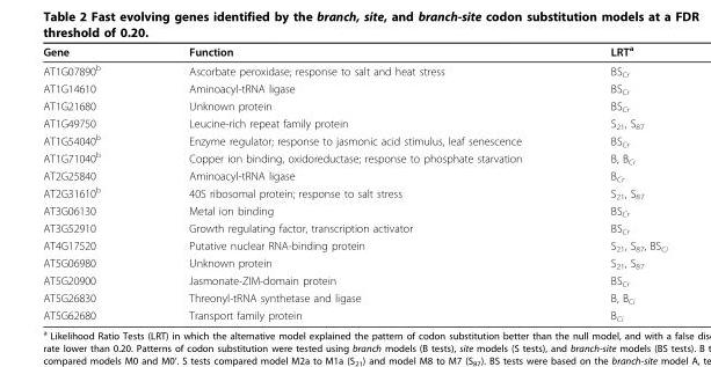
<table><thead><tr><td>Gene</td><td>Function</td><td>LRT<sup>a</sup></td></tr></thead><tbody><tr><td>AT1G07890<sup>b</sup></td><td>Ascorbate peroxidase; response to salt and heat stress</td><td>BS<sub>Cr</sub></td></tr><tr><td>AT1G14610</td><td>Aminoacyl-tRNA ligase</td><td>BS<sub>Cr</sub></td></tr><tr><td>AT1G21680</td><td>Unknown protein</td><td>BS<sub>Cr</sub></td></tr><tr><td>AT1G49750</td><td>Leucine-rich repeat family protein</td><td>S<sub>21</sub>, S<sub>87</sub></td></tr><tr><td>AT1G54040<sup>b</sup></td><td>Enzyme regulator; response to jasmonic acid stimulus, leaf senescence</td><td>BS<sub>Cr</sub></td></tr><tr><td>AT1G71040<sup>b</sup></td><td>Copper ion binding, oxidoreductase; response to phosphate starvation</td><td>B, B<sub>Ci</sub></td></tr><tr><td>AT2G25840</td><td>Aminoacyl-tRNA ligase</td><td>B<sub>Cr</sub></td></tr><tr><td>AT2G31610<sup>b</sup></td><td>40S ribosomal protein; response to salt stress</td><td>S<sub>21</sub>, S<sub>87</sub></td></tr><tr><td>AT3G06130</td><td>Metal ion binding</td><td>BS<sub>Cr</sub></td></tr><tr><td>AT3G52910</td><td>Growth regulating factor, transcription activator</td><td>BS<sub>Cr</sub></td></tr><tr><td>AT4G17520</td><td>Putative nuclear RNA-binding protein</td><td>S<sub>21</sub>, S<sub>87</sub>, BS<sub>Ci</sub></td></tr><tr><td>AT5G06980</td><td>Unknown protein</td><td>S<sub>21</sub>, S<sub>87</sub></td></tr><tr><td>AT5G20900</td><td>Jasmonate-ZIM-domain protein</td><td>BS<sub>Cr</sub></td></tr><tr><td>AT5G26830</td><td>Threonyl-tRNA synthetase and ligase</td><td>B, B<sub>Ci</sub></td></tr><tr><td>AT5G62680</td><td>Transport family protein</td><td>B<sub>Ci</sub></td></tr></tbody></table>